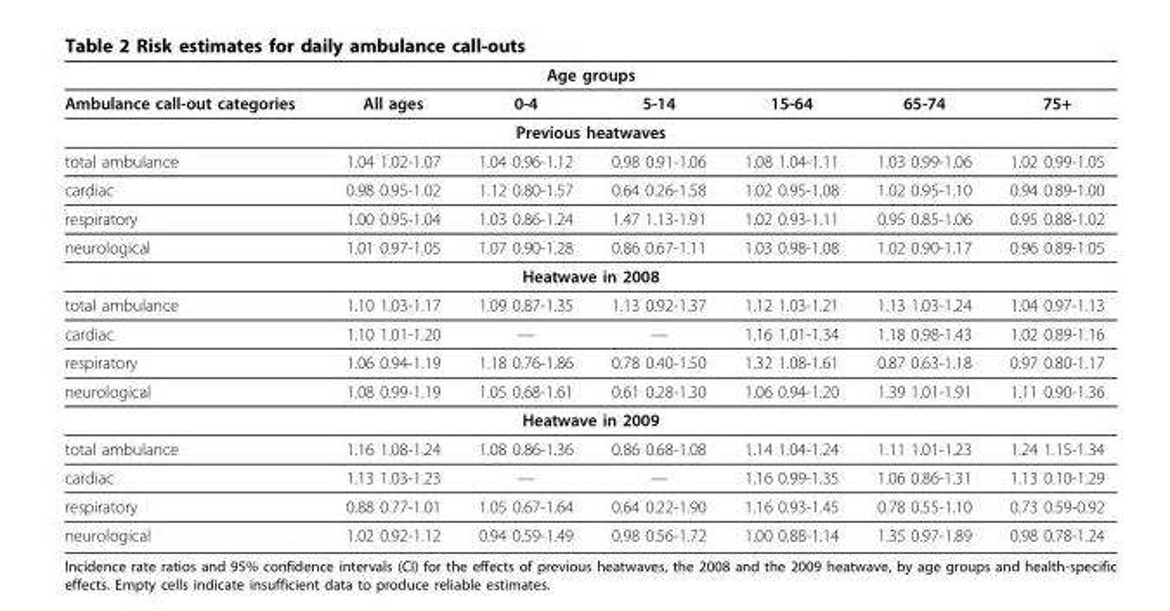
<table><thead><tr><td colspan="7">Age groups</td></tr><tr><td>Ambulance call-out categories</td><td>All ages</td><td>0-4</td><td>5-14</td><td>15-64</td><td>65-74</td><td>75+</td></tr></thead><tbody><tr><td colspan="7">Previous heatwaves</td></tr><tr><td>total ambulance</td><td>1.04 1.02-1.07</td><td>1.04 0.96-1.12</td><td>0.98 0.91-1.06</td><td>1.08 1.04-1.11</td><td>1.03 0.99-1.06</td><td>1.02 0.99-1.05</td></tr><tr><td>cardiac</td><td>0.98 0.95-1.02</td><td>1.12 0.80-1.57</td><td>0.64 0.26-1.58</td><td>1.02 0.95-1.08</td><td>1.02 0.95-1.10</td><td>0.94 0.89-1.00</td></tr><tr><td>respiratory</td><td>1.00 0.95-1.04</td><td>1.03 0.86-1.24</td><td>1.47 1.13-1.91</td><td>1.02 0.93-1.11</td><td>0.95 0.85-1.06</td><td>0.95 0.88-1.02</td></tr><tr><td>neurological</td><td>1.01 0.97-1.05</td><td>1.07 0.90-1.28</td><td>0.86 0.67-1.11</td><td>1.03 0.98-1.08</td><td>1.02 0.90-1.17</td><td>0.96 0.89-1.05</td></tr><tr><td colspan="7">Heatwave in 2008</td></tr><tr><td>total ambulance</td><td>1.10 1.03-1.17</td><td>1.09 0.87-1.35</td><td>1.13 0.92-1.37</td><td>1.12 1.03-1.21</td><td>1.13 1.03-1.24</td><td>1.04 0.97-1.13</td></tr><tr><td>cardiac</td><td>1.10 1.01-1.20</td><td>—</td><td>—</td><td>1.16 1.01-1.34</td><td>1.18 0.98-1.43</td><td>1.02 0.89-1.16</td></tr><tr><td>respiratory</td><td>1.06 0.94-1.19</td><td>1.18 0.76-1.86</td><td>0.78 0.40-1.50</td><td>1.32 1.08-1.61</td><td>0.87 0.63-1.18</td><td>0.97 0.80-1.17</td></tr><tr><td>neurological</td><td>1.08 0.99-1.19</td><td>1.05 0.68-1.61</td><td>0.61 0.28-1.30</td><td>1.06 0.94-1.20</td><td>1.39 1.01-1.91</td><td>1.11 0.90-1.36</td></tr><tr><td colspan="7">Heatwave in 2009</td></tr><tr><td>total ambulance</td><td>1.16 1.08-1.24</td><td>1.08 0.86-1.36</td><td>0.86 0.68-1.08</td><td>1.14 1.04-1.24</td><td>1.11 1.01-1.23</td><td>1.24 1.15-1.34</td></tr><tr><td>cardiac</td><td>1.13 1.03-1.23</td><td>—</td><td>—</td><td>1.16 0.99-1.35</td><td>1.06 0.86-1.31</td><td>1.13 0.10-1.29</td></tr><tr><td>respiratory</td><td>0.88 0.77-1.01</td><td>1.05 0.67-1.64</td><td>0.64 0.22-1.90</td><td>1.16 0.93-1.45</td><td>0.78 0.55-1.10</td><td>0.73 0.59-0.92</td></tr><tr><td>neurological</td><td>1.02 0.92-1.12</td><td>0.94 0.59-1.49</td><td>0.98 0.56-1.72</td><td>1.00 0.88-1.14</td><td>1.35 0.97-1.89</td><td>0.98 0.78-1.24</td></tr></tbody></table>